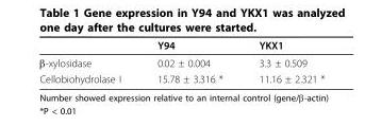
<table><thead><tr><td></td><td>Y94</td><td>YKX1</td></tr></thead><tbody><tr><td>β-xylosidase</td><td>0.02 ± 0.004</td><td>3.3 ± 0.509</td></tr><tr><td>Cellobiohydrolase I</td><td>15.78 ± 3.316 *</td><td>11.16 ± 2.321 *</td></tr></tbody></table>